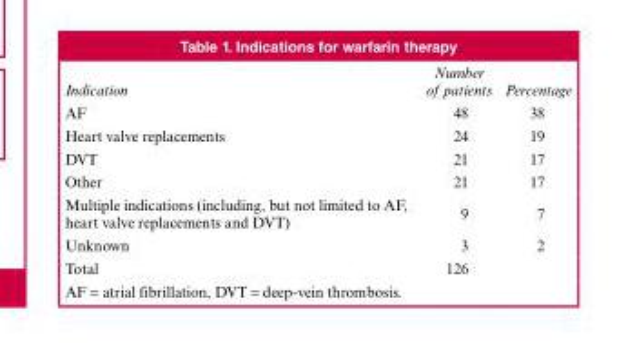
<table><thead><tr><td>Indication</td><td>Number of patients</td><td>Percentage</td></tr></thead><tbody><tr><td>AF</td><td>48</td><td>38</td></tr><tr><td>Heart valve replacements</td><td>24</td><td>19</td></tr><tr><td>DVT</td><td>21</td><td>17</td></tr><tr><td>Other</td><td>21</td><td>17</td></tr><tr><td>Multiple indications (including, but not limited to AF, heart valve replacements and DVT)</td><td>9</td><td>7</td></tr><tr><td>Unknown</td><td>3</td><td>2</td></tr><tr><td>Total</td><td>126</td><td></td></tr></tbody></table>